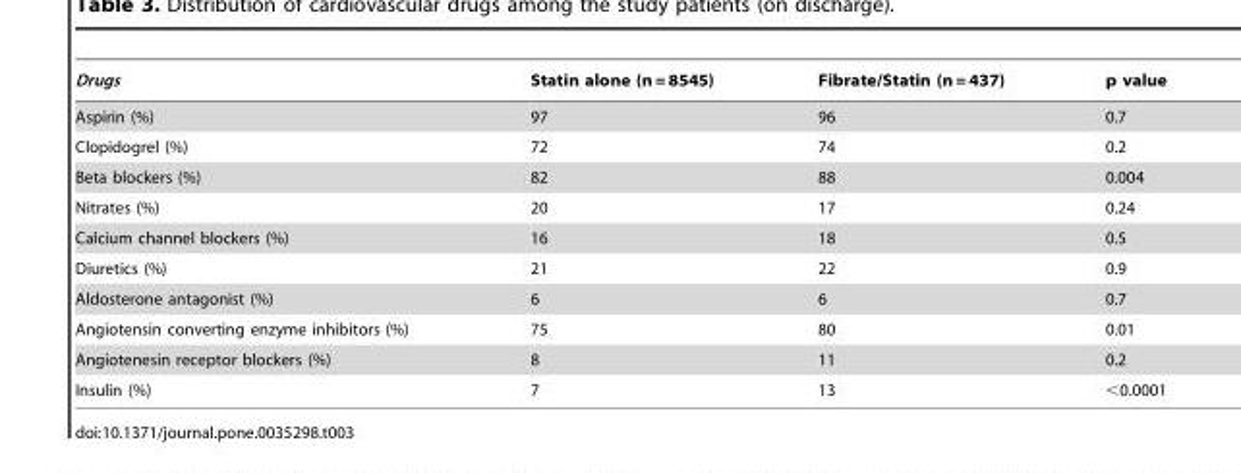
<table><thead><tr><td>Drugs</td><td>Statin alone (n = 8545)</td><td>Fibrate/Statin (n = 437)</td><td>p value</td></tr></thead><tbody><tr><td>Aspirin (%)</td><td>97</td><td>96</td><td>0.7</td></tr><tr><td>Clopidogrel (%)</td><td>72</td><td>74</td><td>0.2</td></tr><tr><td>Beta blockers (%)</td><td>82</td><td>88</td><td>0.004</td></tr><tr><td>Nitrates (%)</td><td>20</td><td>17</td><td>0.24</td></tr><tr><td>Calcium channel blockers (%)</td><td>16</td><td>18</td><td>0.5</td></tr><tr><td>Diuretics (%)</td><td>21</td><td>22</td><td>0.9</td></tr><tr><td>Aldosterone antagonist (%)</td><td>6</td><td>6</td><td>0.7</td></tr><tr><td>Angiotensin converting enzyme inhibitors (%)</td><td>75</td><td>80</td><td>0.01</td></tr><tr><td>Angiotenesin receptor blockers (%)</td><td>8</td><td>11</td><td>0.2</td></tr><tr><td>Insulin (%)</td><td>7</td><td>13</td><td>&lt;0.0001</td></tr></tbody></table>